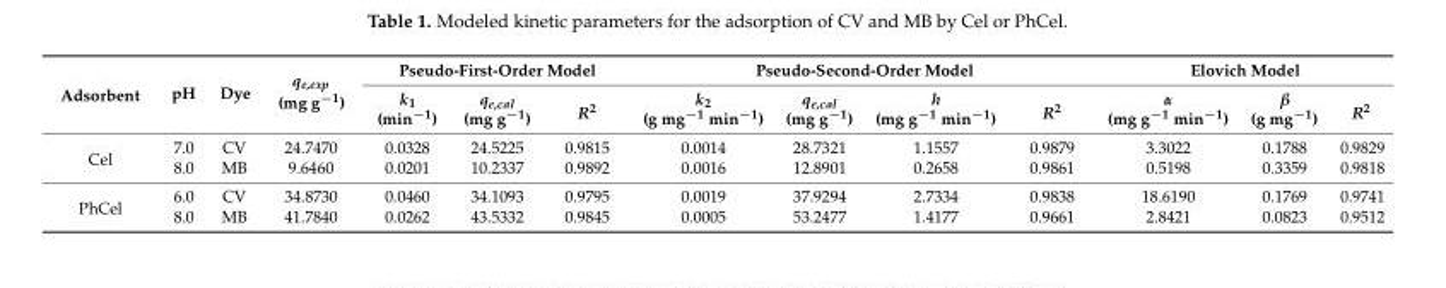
<table><thead><tr><td rowspan="2">Adsorbent</td><td rowspan="2">pH</td><td rowspan="2">Dye</td><td rowspan="2">q<sub>e,exp</sub> (mg g<sup>−1</sup>)</td><td colspan="3">Pseudo-First-Order Model</td><td colspan="4">Pseudo-Second-Order Model</td><td colspan="3">Elovich Model</td></tr><tr><td>k<sub>1</sub> (min<sup>−1</sup>)</td><td>q<sub>e,cal</sub> (mg g<sup>−1</sup>)</td><td>R<sup>2</sup></td><td>k<sub>2</sub> (g mg<sup>−1</sup> min<sup>−1</sup>)</td><td>q<sub>e,cal</sub> (mg g<sup>−1</sup>)</td><td>h (mg g<sup>−1</sup> min<sup>−1</sup>)</td><td>R<sup>2</sup></td><td>α (mg g<sup>−1</sup> min<sup>−1</sup>)</td><td>β (g mg<sup>−1</sup>)</td><td>R<sup>2</sup></td></tr></thead><tbody><tr><td rowspan="2">Cel</td><td>7.0</td><td>CV</td><td>24.7470</td><td>0.0328</td><td>24.5225</td><td>0.9815</td><td>0.0014</td><td>28.7321</td><td>1.1557</td><td>0.9879</td><td>3.3022</td><td>0.1788</td><td>0.9829</td></tr><tr><td>8.0</td><td>MB</td><td>9.6460</td><td>0.0201</td><td>10.2337</td><td>0.9892</td><td>0.0016</td><td>12.8901</td><td>0.2658</td><td>0.9861</td><td>0.5198</td><td>0.3359</td><td>0.9818</td></tr><tr><td rowspan="2">PhCel</td><td>6.0</td><td>CV</td><td>34.8730</td><td>0.0460</td><td>34.1093</td><td>0.9795</td><td>0.0019</td><td>37.9294</td><td>2.7334</td><td>0.9838</td><td>18.6190</td><td>0.1769</td><td>0.9741</td></tr><tr><td>8.0</td><td>MB</td><td>41.7840</td><td>0.0262</td><td>43.5332</td><td>0.9845</td><td>0.0005</td><td>53.2477</td><td>1.4177</td><td>0.9661</td><td>2.8421</td><td>0.0823</td><td>0.9512</td></tr></tbody></table>